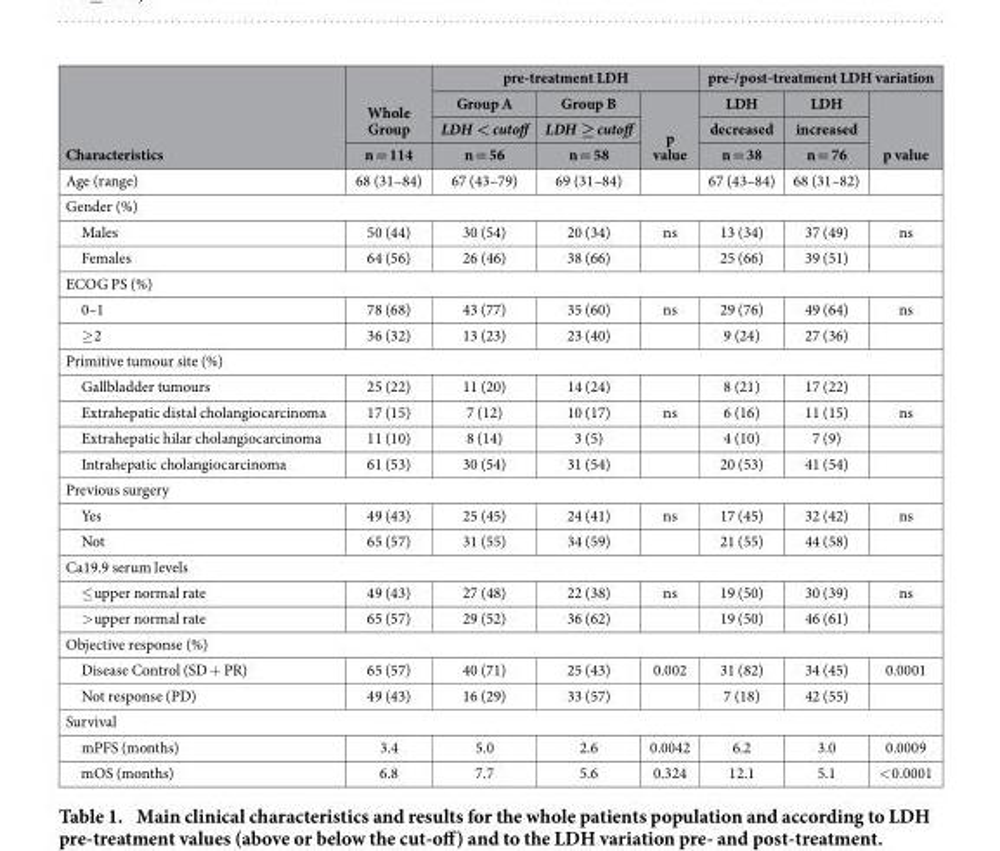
<table><thead><tr><td rowspan="4">Characteristics</td><td rowspan="4">Whole Group n = 114</td><td colspan="3">pre-treatment LDH</td><td colspan="3">pre-/post-treatment LDH variation</td></tr><tr><td rowspan="3">Group A LDH &lt; cutoff n = 56</td><td rowspan="3">Group B LDH ≥ cutoff n = 58</td><td rowspan="3">p value</td><td rowspan="3">LDH decreased n = 38</td><td rowspan="3">LDH increased n = 76</td><td rowspan="3">p value</td></tr><tr></tr><tr></tr></thead><tbody><tr><td>Age (range)</td><td>68 (31–84)</td><td>67 (43–79)</td><td>69 (31–84)</td><td></td><td>67 (43–84)</td><td>68 (31–82)</td><td></td></tr><tr><td colspan="8">Gender (%)</td></tr><tr><td>Males</td><td>50 (44)</td><td>30 (54)</td><td>20 (34)</td><td>ns</td><td>13 (34)</td><td>37 (49)</td><td>ns</td></tr><tr><td>Females</td><td>64 (56)</td><td>26 (46)</td><td>38 (66)</td><td></td><td>25 (66)</td><td>39 (51)</td><td></td></tr><tr><td colspan="8">ECOG PS (%)</td></tr><tr><td>0–1</td><td>78 (68)</td><td>43 (77)</td><td>35 (60)</td><td>ns</td><td>29 (76)</td><td>49 (64)</td><td>ns</td></tr><tr><td>≥ 2</td><td>36 (32)</td><td>13 (23)</td><td>23 (40)</td><td></td><td>9 (24)</td><td>27 (36)</td><td></td></tr><tr><td colspan="8">Primitive tumour site (%)</td></tr><tr><td>Gallbladder tumours</td><td>25 (22)</td><td>11 (20)</td><td>14 (24)</td><td></td><td>8 (21)</td><td>17 (22)</td><td></td></tr><tr><td>Extrahepatic distal cholangiocarcinoma</td><td>17 (15)</td><td>7 (12)</td><td>10 (17)</td><td>ns</td><td>6 (16)</td><td>11 (15)</td><td>ns</td></tr><tr><td>Extrahepatic hilar cholangiocarcinoma</td><td>11 (10)</td><td>8 (14)</td><td>3 (5)</td><td></td><td>4 (10)</td><td>7 (9)</td><td></td></tr><tr><td>Intrahepatic cholangiocarcinoma</td><td>61 (53)</td><td>30 (54)</td><td>31 (54)</td><td></td><td>20 (53)</td><td>41 (54)</td><td></td></tr><tr><td colspan="8">Previous surgery</td></tr><tr><td>Yes</td><td>49 (43)</td><td>25 (45)</td><td>24 (41)</td><td>ns</td><td>17 (45)</td><td>32 (42)</td><td>ns</td></tr><tr><td>Not</td><td>65 (57)</td><td>31 (55)</td><td>34 (59)</td><td></td><td>21 (55)</td><td>44 (58)</td><td></td></tr><tr><td colspan="8">Ca19.9 serum levels</td></tr><tr><td>≤ upper normal rate</td><td>49 (43)</td><td>27 (48)</td><td>22 (38)</td><td>ns</td><td>19 (50)</td><td>30 (39)</td><td>ns</td></tr><tr><td>&gt; upper normal rate</td><td>65 (57)</td><td>29 (52)</td><td>36 (62)</td><td></td><td>19 (50)</td><td>46 (61)</td><td></td></tr><tr><td colspan="8">Objective response (%)</td></tr><tr><td>Disease Control (SD + PR)</td><td>65 (57)</td><td>40 (71)</td><td>25 (43)</td><td>0.002</td><td>31 (82)</td><td>34 (45)</td><td>0.0001</td></tr><tr><td>Not response (PD)</td><td>49 (43)</td><td>16 (29)</td><td>33 (57)</td><td></td><td>7 (18)</td><td>42 (55)</td><td></td></tr><tr><td colspan="8">Survival</td></tr><tr><td>mPFS (months)</td><td>3.4</td><td>5.0</td><td>2.6</td><td>0.0042</td><td>6.2</td><td>3.0</td><td>0.0009</td></tr><tr><td>mOS (months)</td><td>6.8</td><td>7.7</td><td>5.6</td><td>0.324</td><td>12.1</td><td>5.1</td><td>&lt; 0.0001</td></tr></tbody></table>